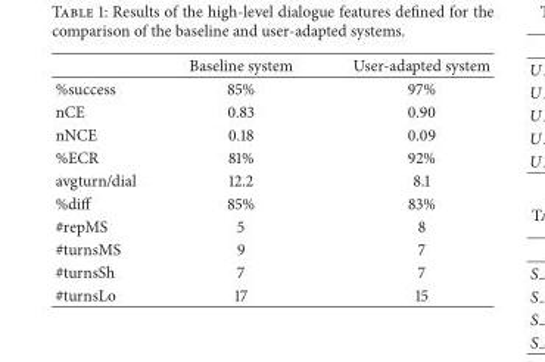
<table><thead><tr><td></td><td>Baseline system</td><td>User-adapted system</td></tr></thead><tbody><tr><td>%success</td><td>85%</td><td>97%</td></tr><tr><td>nCE</td><td>0.83</td><td>0.90</td></tr><tr><td>nNCE</td><td>0.18</td><td>0.09</td></tr><tr><td>%ECR</td><td>81%</td><td>92%</td></tr><tr><td>avgturn/dial</td><td>12.2</td><td>8.1</td></tr><tr><td>%diff</td><td>85%</td><td>83%</td></tr><tr><td>#repMS</td><td>5</td><td>8</td></tr><tr><td>#turnsMS</td><td>9</td><td>7</td></tr><tr><td>#turnsSh</td><td>7</td><td>7</td></tr><tr><td>#turnsLo</td><td>17</td><td>15</td></tr></tbody></table>